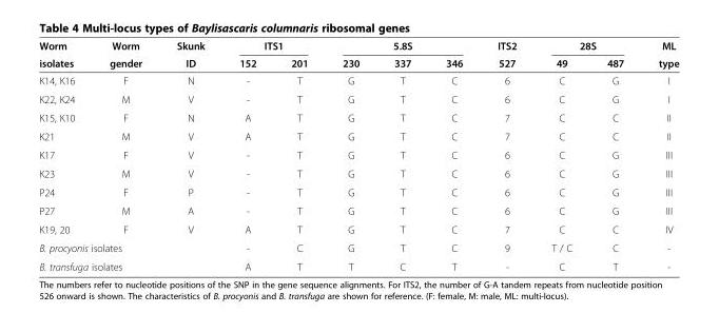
<table><thead><tr><td rowspan="2">Worm isolates</td><td rowspan="2">Worm gender</td><td rowspan="2">Skunk ID</td><td colspan="2">ITS1</td><td colspan="3">5.8S</td><td rowspan="2">ITS2 527</td><td colspan="2">28S</td><td rowspan="2">ML type</td></tr><tr><td>152</td><td>201</td><td>230</td><td>337</td><td>346</td><td>49</td><td>487</td></tr></thead><tbody><tr><td>K14, K16</td><td>F</td><td>N</td><td>-</td><td>T</td><td>G</td><td>T</td><td>C</td><td>6</td><td>C</td><td>G</td><td>I</td></tr><tr><td>K22, K24</td><td>M</td><td>V</td><td>-</td><td>T</td><td>G</td><td>T</td><td>C</td><td>6</td><td>C</td><td>G</td><td>I</td></tr><tr><td>K15, K10</td><td>F</td><td>N</td><td>A</td><td>T</td><td>G</td><td>T</td><td>C</td><td>7</td><td>C</td><td>C</td><td>II</td></tr><tr><td>K21</td><td>M</td><td>V</td><td>A</td><td>T</td><td>G</td><td>T</td><td>C</td><td>7</td><td>C</td><td>C</td><td>II</td></tr><tr><td>K17</td><td>F</td><td>V</td><td>-</td><td>T</td><td>G</td><td>T</td><td>C</td><td>6</td><td>C</td><td>G</td><td>III</td></tr><tr><td>K23</td><td>M</td><td>V</td><td>-</td><td>T</td><td>G</td><td>T</td><td>C</td><td>6</td><td>C</td><td>G</td><td>III</td></tr><tr><td>P24</td><td>F</td><td>P</td><td>-</td><td>T</td><td>G</td><td>T</td><td>C</td><td>6</td><td>C</td><td>G</td><td>III</td></tr><tr><td>P27</td><td>M</td><td>A</td><td>-</td><td>T</td><td>G</td><td>T</td><td>C</td><td>6</td><td>C</td><td>G</td><td>III</td></tr><tr><td>K19, 20</td><td>F</td><td>V</td><td>A</td><td>T</td><td>G</td><td>T</td><td>C</td><td>7</td><td>C</td><td>C</td><td>IV</td></tr><tr><td colspan="3">B. procyonis isolates</td><td>-</td><td>C</td><td>G</td><td>T</td><td>C</td><td>9</td><td>T / C</td><td>C</td><td>-</td></tr><tr><td colspan="3">B. transfuga isolates</td><td>A</td><td>T</td><td>T</td><td>C</td><td>T</td><td>-</td><td>C</td><td>T</td><td>-</td></tr></tbody></table>